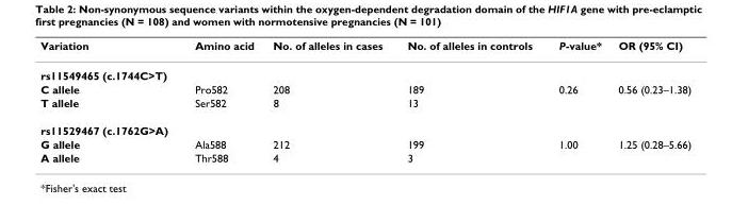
<table><thead><tr><td>Variation</td><td>Amino acid</td><td>No. of alleles in cases</td><td>No. of alleles in controls</td><td>P-value*</td><td>OR (95% CI)</td></tr></thead><tbody><tr><td colspan="6">rs11549465 (c.1744C&gt;T)</td></tr><tr><td>C allele</td><td>Pro582</td><td>208</td><td>189</td><td>0.26</td><td>0.56 (0.23–1.38)</td></tr><tr><td>T allele</td><td>Ser582</td><td>8</td><td>13</td><td></td><td></td></tr><tr><td colspan="6">rs11529467 (c.1762G&gt;A)</td></tr><tr><td>G allele</td><td>Ala588</td><td>212</td><td>199</td><td>1.00</td><td>1.25 (0.28–5.66)</td></tr><tr><td>A allele</td><td>Thr588</td><td>4</td><td>3</td><td></td><td></td></tr></tbody></table>